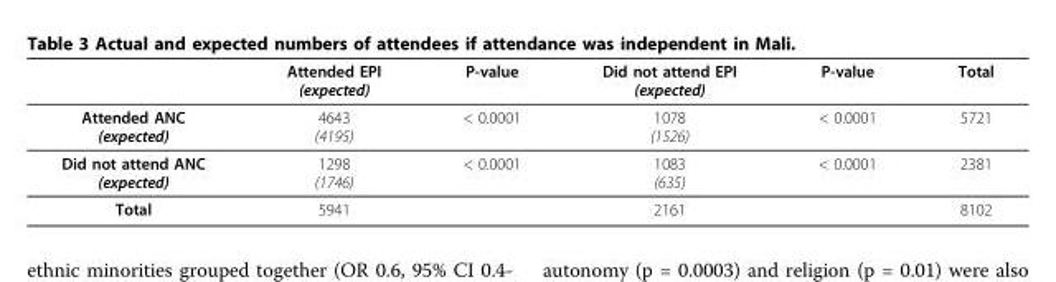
<table><thead><tr><td></td><td>Attended EPI (expected)</td><td>P-value</td><td>Did not attend EPI (expected)</td><td>P-value</td><td>Total</td></tr></thead><tbody><tr><td>Attended ANC (expected)</td><td>4643 (4195)</td><td>&lt; 0.0001</td><td>1078 (1526)</td><td>&lt; 0.0001</td><td>5721</td></tr><tr><td>Did not attend ANC (expected)</td><td>1298 (1746)</td><td>&lt; 0.0001</td><td>1083 (635)</td><td>&lt; 0.0001</td><td>2381</td></tr><tr><td>Total</td><td>5941</td><td></td><td>2161</td><td></td><td>8102</td></tr></tbody></table>